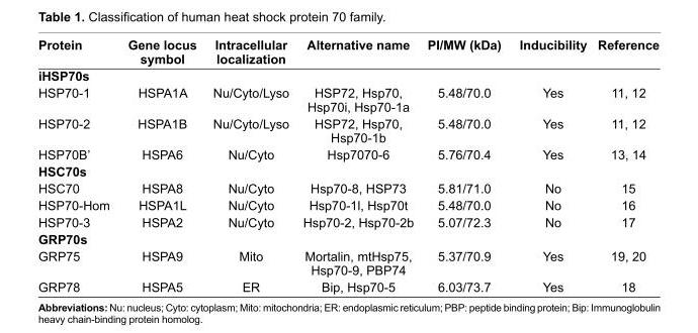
<table><thead><tr><td>Protein</td><td>Gene locus symbol</td><td>Intracellular localization</td><td>Alternative name</td><td>PI/MW (kDa)</td><td>Inducibility</td><td>Reference</td></tr></thead><tbody><tr><td colspan="7">iHSP70s</td></tr><tr><td>HSP70-1</td><td>HSPA1A</td><td>Nu/Cyto/Lyso</td><td>HSP72, Hsp70, Hsp70i, Hsp70-1a</td><td>5.48/70.0</td><td>Yes</td><td>11, 12</td></tr><tr><td>HSP70-2</td><td>HSPA1B</td><td>Nu/Cyto/Lyso</td><td>HSP72, Hsp70, Hsp70-1b</td><td>5.48/70.0</td><td>Yes</td><td>11, 12</td></tr><tr><td>HSP70B’</td><td>HSPA6</td><td>Nu/Cyto</td><td>Hsp7070-6</td><td>5.76/70.4</td><td>Yes</td><td>13, 14</td></tr><tr><td colspan="7">HSC70s</td></tr><tr><td>HSC70</td><td>HSPA8</td><td>Nu/Cyto</td><td>Hsp70-8, HSP73</td><td>5.81/71.0</td><td>No</td><td>15</td></tr><tr><td>HSP70-Hom</td><td>HSPA1L</td><td>Nu/Cyto</td><td>Hsp70-1l, Hsp70t</td><td>5.48/70.0</td><td>No</td><td>16</td></tr><tr><td>HSP70-3</td><td>HSPA2</td><td>Nu/Cyto</td><td>Hsp70-2, Hsp70-2b</td><td>5.07/72.3</td><td>No</td><td>17</td></tr><tr><td colspan="7">GRP70s</td></tr><tr><td>GRP75</td><td>HSPA9</td><td>Mito</td><td>Mortalin, mtHsp75, Hsp70-9, PBP74</td><td>5.37/70.9</td><td>Yes</td><td>19, 20</td></tr><tr><td>GRP78</td><td>HSPA5</td><td>ER</td><td>Bip, Hsp70-5</td><td>6.03/73.7</td><td>Yes</td><td>18</td></tr></tbody></table>